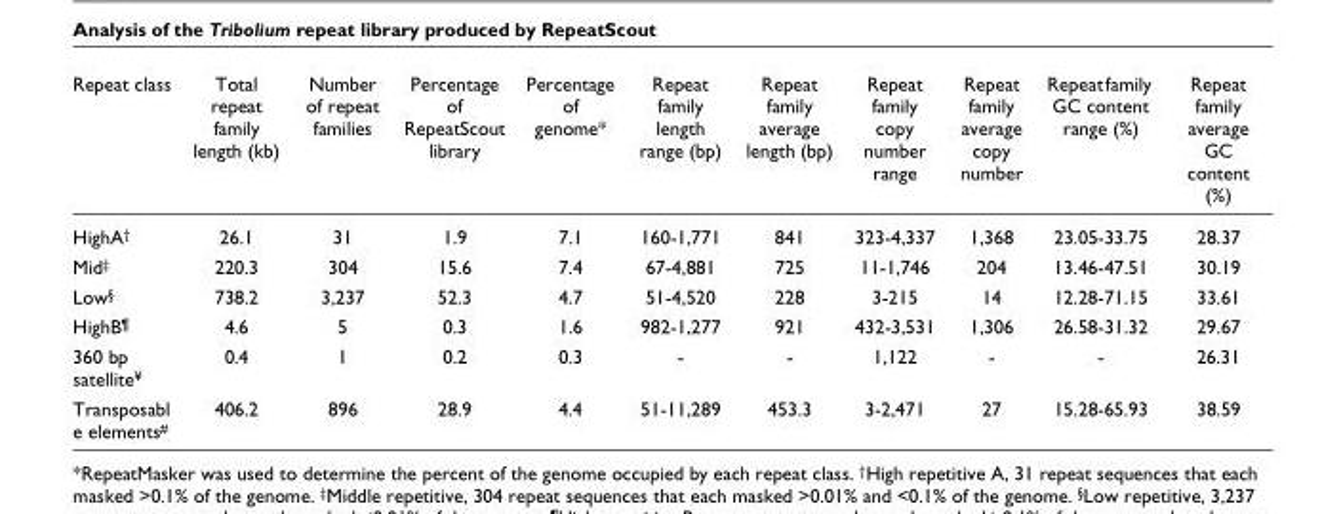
<table><thead><tr><td>Repeat class</td><td>Total repeat family length (kb)</td><td>Number of repeat families</td><td>Percentage of RepeatScout library</td><td>Percentage of genome*</td><td>Repeat family length range (bp)</td><td>Repeat family average length (bp)</td><td>Repeat family copy number range</td><td>Repeat family average copy number</td><td>Repeat family GC content range (%)</td><td>Repeat family average GC content (%)</td></tr></thead><tbody><tr><td>HighA<sup>†</sup></td><td>26.1</td><td>31</td><td>1.9</td><td>7.1</td><td>160-1,771</td><td>841</td><td>323-4,337</td><td>1,368</td><td>23.05-33.75</td><td>28.37</td></tr><tr><td>Mid<sup>‡</sup></td><td>220.3</td><td>304</td><td>15.6</td><td>7.4</td><td>67-4,881</td><td>725</td><td>11-1,746</td><td>204</td><td>13.46-47.51</td><td>30.19</td></tr><tr><td>Low<sup>§</sup></td><td>738.2</td><td>3,237</td><td>52.3</td><td>4.7</td><td>51-4,520</td><td>228</td><td>3-215</td><td>14</td><td>12.28-71.15</td><td>33.61</td></tr><tr><td>HighB<sup>¶</sup></td><td>4.6</td><td>5</td><td>0.3</td><td>1.6</td><td>982-1,277</td><td>921</td><td>432-3,531</td><td>1,306</td><td>26.58-31.32</td><td>29.67</td></tr><tr><td>360 bp satellite<sup>¥</sup></td><td>0.4</td><td>1</td><td>0.2</td><td>0.3</td><td>-</td><td>-</td><td>1,122</td><td>-</td><td>-</td><td>26.31</td></tr><tr><td>Transposabl e elements<sup>#</sup></td><td>406.2</td><td>896</td><td>28.9</td><td>4.4</td><td>51-11,289</td><td>453.3</td><td>3-2,471</td><td>27</td><td>15.28-65.93</td><td>38.59</td></tr></tbody></table>